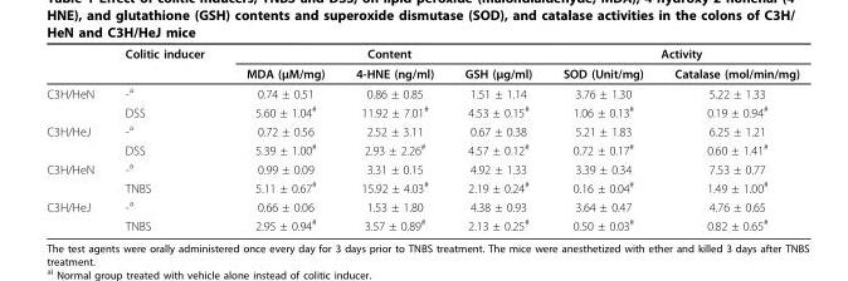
<table><thead><tr><td rowspan="2"></td><td rowspan="2">Colitic inducer</td><td colspan="3">Content</td><td colspan="2">Activity</td></tr><tr><td>MDA (μM/mg)</td><td>4-HNE (ng/ml)</td><td>GSH (μg/ml)</td><td>SOD (Unit/mg)</td><td>Catalase (mol/min/mg)</td></tr></thead><tbody><tr><td rowspan="2">C3H/HeN</td><td>-<sup>a</sup></td><td>0.74 ± 0.51</td><td>0.86 ± 0.85</td><td>1.51 ± 1.14</td><td>3.76 ± 1.30</td><td>5.22 ± 1.33</td></tr><tr><td>DSS</td><td>5.60 ± 1.04<sup>#</sup></td><td>11.92 ± 7.01<sup>#</sup></td><td>4.53 ± 0.15<sup>#</sup></td><td>1.06 ± 0.13<sup>#</sup></td><td>0.19 ± 0.94<sup>#</sup></td></tr><tr><td rowspan="2">C3H/HeJ</td><td>-<sup>a</sup></td><td>0.72 ± 0.56</td><td>2.52 ± 3.11</td><td>0.67 ± 0.38</td><td>5.21 ± 1.83</td><td>6.25 ± 1.21</td></tr><tr><td>DSS</td><td>5.39 ± 1.00<sup>#</sup></td><td>2.93 ± 2.26<sup>#</sup></td><td>4.57 ± 0.12<sup>#</sup></td><td>0.72 ± 0.17<sup>#</sup></td><td>0.60 ± 1.41<sup>#</sup></td></tr><tr><td rowspan="2">C3H/HeN</td><td>-<sup>a</sup></td><td>0.99 ± 0.09</td><td>3.31 ± 0.15</td><td>4.92 ± 1.33</td><td>3.39 ± 0.34</td><td>7.53 ± 0.77</td></tr><tr><td>TNBS</td><td>5.11 ± 0.67<sup>#</sup></td><td>15.92 ± 4.03<sup>#</sup></td><td>2.19 ± 0.24<sup>#</sup></td><td>0.16 ± 0.04<sup>#</sup></td><td>1.49 ± 1.00<sup>#</sup></td></tr><tr><td rowspan="2">C3H/HeJ</td><td>-<sup>a</sup></td><td>0.66 ± 0.06</td><td>1.53 ± 1.80</td><td>4.38 ± 0.93</td><td>3.64 ± 0.47</td><td>4.76 ± 0.65</td></tr><tr><td>TNBS</td><td>2.95 ± 0.94<sup>#</sup></td><td>3.57 ± 0.89<sup>#</sup></td><td>2.13 ± 0.25<sup>#</sup></td><td>0.50 ± 0.03<sup>#</sup></td><td>0.82 ± 0.65<sup>#</sup></td></tr></tbody></table>